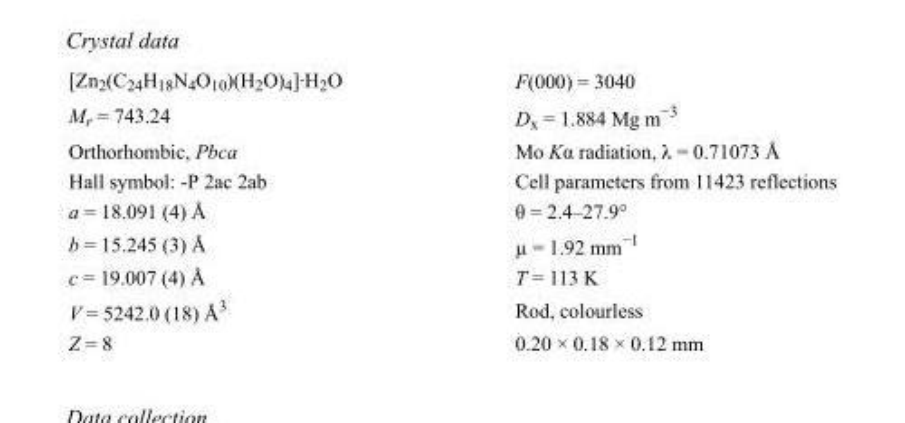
<table><tbody><tr><td>[Zn<sub>2</sub>(C<sub>24</sub>H<sub>18</sub>N<sub>4</sub>O<sub>10</sub>)(H<sub>2</sub>O)<sub>4</sub>]·H<sub>2</sub>O</td><td>F(000) = 3040</td></tr><tr><td>M<sub>r</sub> = 743.24</td><td>D<sub>x</sub> = 1.884 Mg m<sup>−3</sup></td></tr><tr><td>Orthorhombic, Pbca</td><td>Mo Kα radiation, λ = 0.71073 Å</td></tr><tr><td>Hall symbol: -P 2ac 2ab</td><td>Cell parameters from 11423 reflections</td></tr><tr><td>a = 18.091 (4) Å</td><td>θ = 2.4–27.9°</td></tr><tr><td>b = 15.245 (3) Å</td><td>µ = 1.92 mm<sup>−1</sup></td></tr><tr><td>c = 19.007 (4) Å</td><td>T = 113 K</td></tr><tr><td>V = 5242.0 (18) Å<sup>3</sup></td><td>Rod, colourless</td></tr><tr><td>Z = 8</td><td>0.20 × 0.18 × 0.12 mm</td></tr></tbody></table>